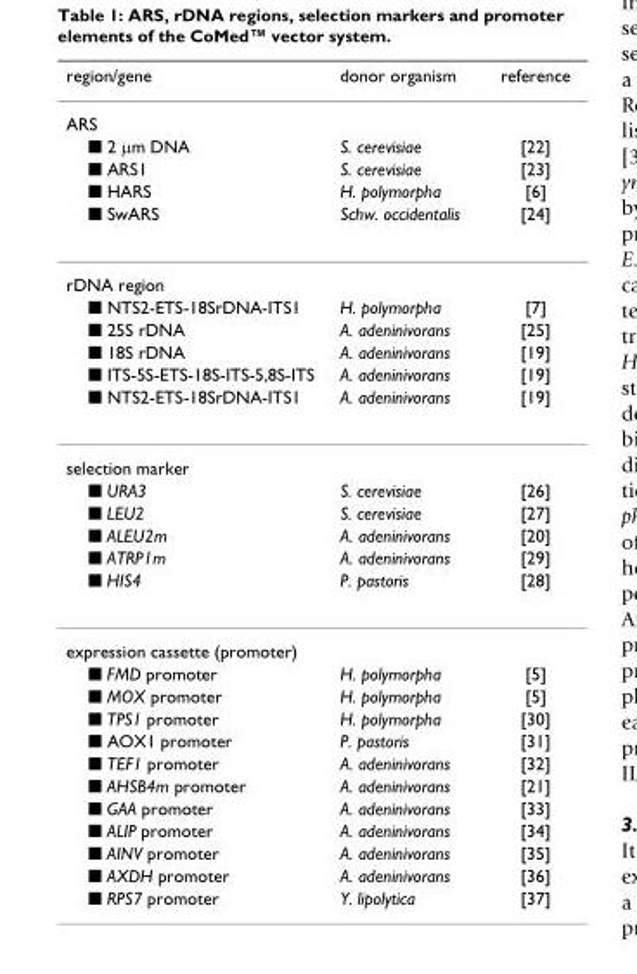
<table><thead><tr><td>region/gene</td><td>donor organism</td><td>reference</td></tr></thead><tbody><tr><td colspan="3">ARS</td></tr><tr><td>■ 2 µm DNA</td><td>S. cerevisiae</td><td>[22]</td></tr><tr><td>■ ARS1</td><td>S. cerevisiae</td><td>[23]</td></tr><tr><td>■ HARS</td><td>H. polymorpha</td><td>[6]</td></tr><tr><td>■ SwARS</td><td>Schw. occidentalis</td><td>[24]</td></tr><tr><td colspan="3">rDNA region</td></tr><tr><td>■ NTS2-ETS-18SrDNA-ITS1</td><td>H. polymorpha</td><td>[7]</td></tr><tr><td>■ 25S rDNA</td><td>A. adeninivorans</td><td>[25]</td></tr><tr><td>■ 18S rDNA</td><td>A. adeninivorans</td><td>[19]</td></tr><tr><td>■ ITS-5S-ETS-18S-ITS-5,8S-ITS</td><td>A. adeninivorans</td><td>[19]</td></tr><tr><td>■ NTS2-ETS-18SrDNA-ITS1</td><td>A. adeninivorans</td><td>[19]</td></tr><tr><td colspan="3">selection marker</td></tr><tr><td>■ URA3</td><td>S. cerevisiae</td><td>[26]</td></tr><tr><td>■ LEU2</td><td>S. cerevisiae</td><td>[27]</td></tr><tr><td>■ ALEU2m</td><td>A. adeninivorans</td><td>[20]</td></tr><tr><td>■ ATRP1m</td><td>A. adeninivorans</td><td>[29]</td></tr><tr><td>■ HIS4</td><td>P. pastoris</td><td>[28]</td></tr><tr><td colspan="3">expression cassette (promoter)</td></tr><tr><td>■ FMD promoter</td><td>H. polymorpha</td><td>[5]</td></tr><tr><td>■ MOX promoter</td><td>H. polymorpha</td><td>[5]</td></tr><tr><td>■ TPS1 promoter</td><td>H. polymorpha</td><td>[30]</td></tr><tr><td>■ AOX1 promoter</td><td>P. pastoris</td><td>[31]</td></tr><tr><td>■ TEF1 promoter</td><td>A. adeninivorans</td><td>[32]</td></tr><tr><td>■ AHSB4m promoter</td><td>A. adeninivorans</td><td>[21]</td></tr><tr><td>■ GAA promoter</td><td>A. adeninivorans</td><td>[33]</td></tr><tr><td>■ ALIP promoter</td><td>A. adeninivorans</td><td>[34]</td></tr><tr><td>■ AINV promoter</td><td>A. adeninivorans</td><td>[35]</td></tr><tr><td>■ AXDH promoter</td><td>A. adeninivorans</td><td>[36]</td></tr><tr><td>■ RPS7 promoter</td><td>Y. lipolytica</td><td>[37]</td></tr></tbody></table>